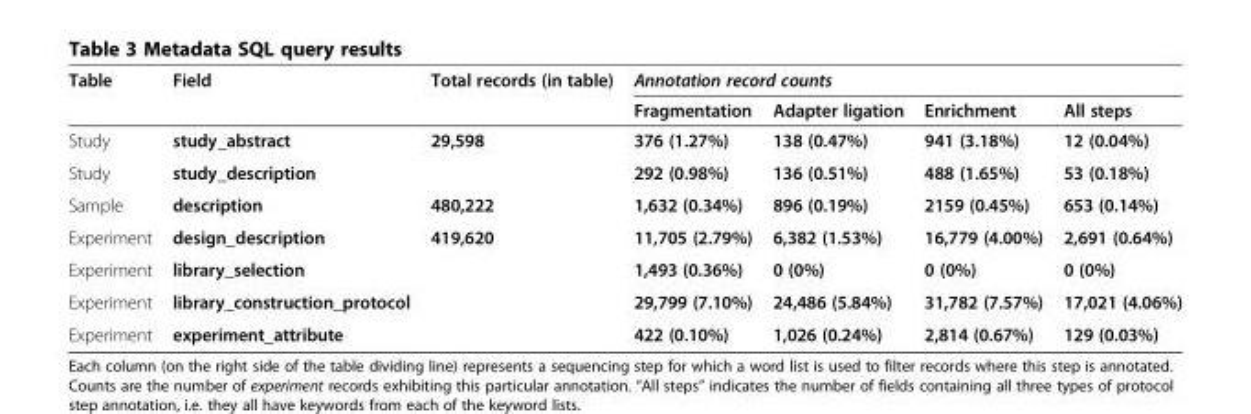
<table><thead><tr><td rowspan="2">Table</td><td rowspan="2">Field</td><td rowspan="2">Total records (in table)</td><td colspan="4">Annotation record counts</td></tr><tr><td>Fragmentation</td><td>Adapter ligation</td><td>Enrichment</td><td>All steps</td></tr></thead><tbody><tr><td>Study</td><td>study_abstract</td><td>29,598</td><td>376 (1.27%)</td><td>138 (0.47%)</td><td>941 (3.18%)</td><td>12 (0.04%)</td></tr><tr><td>Study</td><td>study_description</td><td></td><td>292 (0.98%)</td><td>136 (0.51%)</td><td>488 (1.65%)</td><td>53 (0.18%)</td></tr><tr><td>Sample</td><td>description</td><td>480,222</td><td>1,632 (0.34%)</td><td>896 (0.19%)</td><td>2159 (0.45%)</td><td>653 (0.14%)</td></tr><tr><td>Experiment</td><td>design_description</td><td>419,620</td><td>11,705 (2.79%)</td><td>6,382 (1.53%)</td><td>16,779 (4.00%)</td><td>2,691 (0.64%)</td></tr><tr><td>Experiment</td><td>library_selection</td><td></td><td>1,493 (0.36%)</td><td>0 (0%)</td><td>0 (0%)</td><td>0 (0%)</td></tr><tr><td>Experiment</td><td>library_construction_protocol</td><td></td><td>29,799 (7.10%)</td><td>24,486 (5.84%)</td><td>31,782 (7.57%)</td><td>17,021 (4.06%)</td></tr><tr><td>Experiment</td><td>experiment_attribute</td><td></td><td>422 (0.10%)</td><td>1,026 (0.24%)</td><td>2,814 (0.67%)</td><td>129 (0.03%)</td></tr></tbody></table>